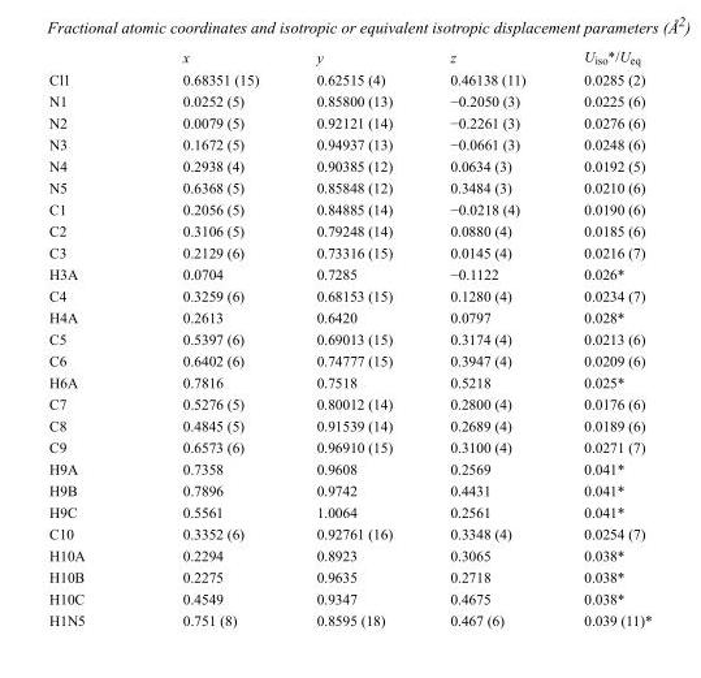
<table><thead><tr><td></td><td>x</td><td>y</td><td>z</td><td>U<sub>iso</sub>*/U<sub>eq</sub></td></tr></thead><tbody><tr><td>Cl1</td><td>0.68351 (15)</td><td>0.62515 (4)</td><td>0.46138 (11)</td><td>0.0285 (2)</td></tr><tr><td>N1</td><td>0.0252 (5)</td><td>0.85800 (13)</td><td>−0.2050 (3)</td><td>0.0225 (6)</td></tr><tr><td>N2</td><td>0.0079 (5)</td><td>0.92121 (14)</td><td>−0.2261 (3)</td><td>0.0276 (6)</td></tr><tr><td>N3</td><td>0.1672 (5)</td><td>0.94937 (13)</td><td>−0.0661 (3)</td><td>0.0248 (6)</td></tr><tr><td>N4</td><td>0.2938 (4)</td><td>0.90385 (12)</td><td>0.0634 (3)</td><td>0.0192 (5)</td></tr><tr><td>N5</td><td>0.6368 (5)</td><td>0.85848 (12)</td><td>0.3484 (3)</td><td>0.0210 (6)</td></tr><tr><td>C1</td><td>0.2056 (5)</td><td>0.84885 (14)</td><td>−0.0218 (4)</td><td>0.0190 (6)</td></tr><tr><td>C2</td><td>0.3106 (5)</td><td>0.79248 (14)</td><td>0.0880 (4)</td><td>0.0185 (6)</td></tr><tr><td>C3</td><td>0.2129 (6)</td><td>0.73316 (15)</td><td>0.0145 (4)</td><td>0.0216 (7)</td></tr><tr><td>H3A</td><td>0.0704</td><td>0.7285</td><td>−0.1122</td><td>0.026*</td></tr><tr><td>C4</td><td>0.3259 (6)</td><td>0.68153 (15)</td><td>0.1280 (4)</td><td>0.0234 (7)</td></tr><tr><td>H4A</td><td>0.2613</td><td>0.6420</td><td>0.0797</td><td>0.028*</td></tr><tr><td>C5</td><td>0.5397 (6)</td><td>0.69013 (15)</td><td>0.3174 (4)</td><td>0.0213 (6)</td></tr><tr><td>C6</td><td>0.6402 (6)</td><td>0.74777 (15)</td><td>0.3947 (4)</td><td>0.0209 (6)</td></tr><tr><td>H6A</td><td>0.7816</td><td>0.7518</td><td>0.5218</td><td>0.025*</td></tr><tr><td>C7</td><td>0.5276 (5)</td><td>0.80012 (14)</td><td>0.2800 (4)</td><td>0.0176 (6)</td></tr><tr><td>C8</td><td>0.4845 (5)</td><td>0.91539 (14)</td><td>0.2689 (4)</td><td>0.0189 (6)</td></tr><tr><td>C9</td><td>0.6573 (6)</td><td>0.96910 (15)</td><td>0.3100 (4)</td><td>0.0271 (7)</td></tr><tr><td>H9A</td><td>0.7358</td><td>0.9608</td><td>0.2569</td><td>0.041*</td></tr><tr><td>H9B</td><td>0.7896</td><td>0.9742</td><td>0.4431</td><td>0.041*</td></tr><tr><td>H9C</td><td>0.5561</td><td>1.0064</td><td>0.2561</td><td>0.041*</td></tr><tr><td>C10</td><td>0.3352 (6)</td><td>0.92761 (16)</td><td>0.3348 (4)</td><td>0.0254 (7)</td></tr><tr><td>H10A</td><td>0.2294</td><td>0.8923</td><td>0.3065</td><td>0.038*</td></tr><tr><td>H10B</td><td>0.2275</td><td>0.9635</td><td>0.2718</td><td>0.038*</td></tr><tr><td>H10C</td><td>0.4549</td><td>0.9347</td><td>0.4675</td><td>0.038*</td></tr><tr><td>H1N5</td><td>0.751 (8)</td><td>0.8595 (18)</td><td>0.467 (6)</td><td>0.039 (11)*</td></tr></tbody></table>